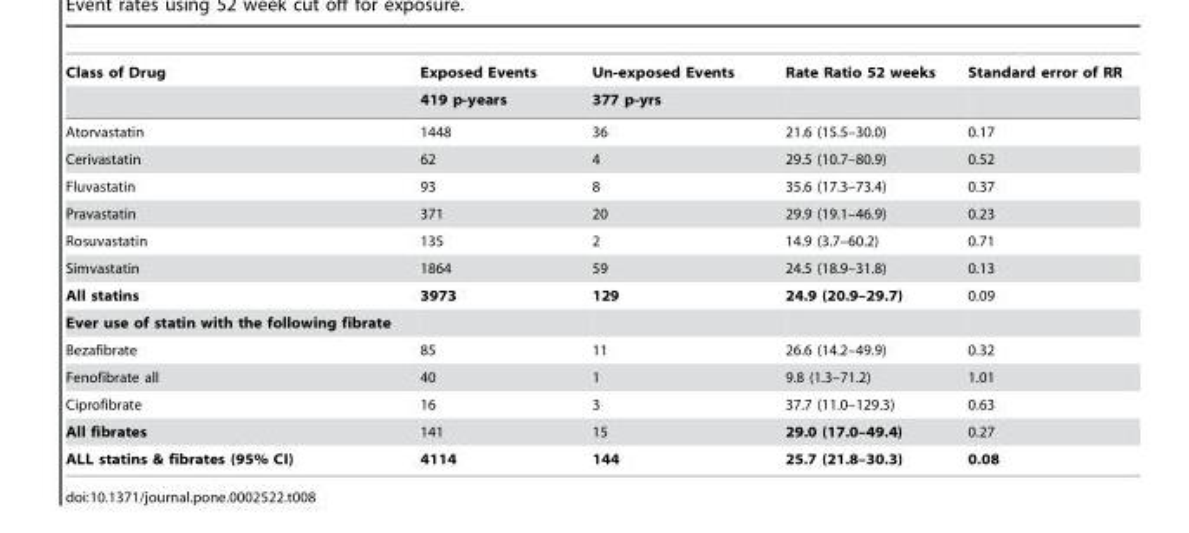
<table><thead><tr><td rowspan="2">Class of Drug</td><td rowspan="2">Exposed Events 419 p-years</td><td rowspan="2">Un-exposed Events 377 p-yrs</td><td rowspan="2">Rate Ratio 52 weeks</td><td rowspan="2">Standard error of RR</td></tr><tr></tr></thead><tbody><tr><td>Atorvastatin</td><td>1448</td><td>36</td><td>21.6 (15.5–30.0)</td><td>0.17</td></tr><tr><td>Cerivastatin</td><td>62</td><td>4</td><td>29.5 (10.7–80.9)</td><td>0.52</td></tr><tr><td>Fluvastatin</td><td>93</td><td>8</td><td>35.6 (17.3–73.4)</td><td>0.37</td></tr><tr><td>Pravastatin</td><td>371</td><td>20</td><td>29.9 (19.1–46.9)</td><td>0.23</td></tr><tr><td>Rosuvastatin</td><td>135</td><td>2</td><td>14.9 (3.7–60.2)</td><td>0.71</td></tr><tr><td>Simvastatin</td><td>1864</td><td>59</td><td>24.5 (18.9–31.8)</td><td>0.13</td></tr><tr><td>All statins</td><td>3973</td><td>129</td><td>24.9 (20.9–29.7)</td><td>0.09</td></tr><tr><td colspan="5">Ever use of statin with the following fibrate</td></tr><tr><td>Bezafibrate</td><td>85</td><td>11</td><td>26.6 (14.2–49.9)</td><td>0.32</td></tr><tr><td>Fenofibrate all</td><td>40</td><td>1</td><td>9.8 (1.3–71.2)</td><td>1.01</td></tr><tr><td>Ciprofibrate</td><td>16</td><td>3</td><td>37.7 (11.0–129.3)</td><td>0.63</td></tr><tr><td>All fibrates</td><td>141</td><td>15</td><td>29.0 (17.0–49.4)</td><td>0.27</td></tr><tr><td>ALL statins &amp; fibrates (95% CI)</td><td>4114</td><td>144</td><td>25.7 (21.8–30.3)</td><td>0.08</td></tr></tbody></table>